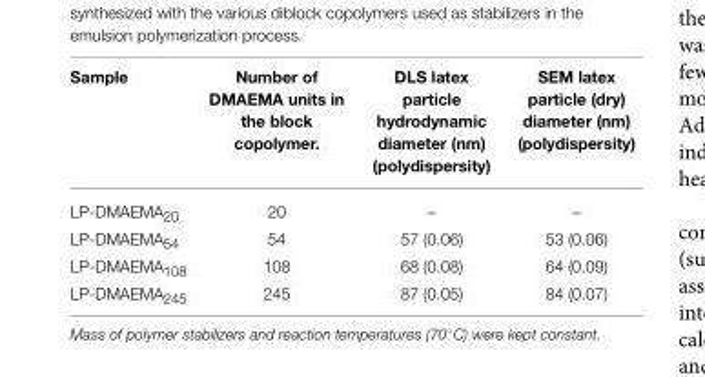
<table><thead><tr><td>Sample</td><td>Number of DMAEMA units in the block copolymer.</td><td>DLS latex particle hydrodynamic diameter (nm) (polydispersity)</td><td>SEM latex particle (dry) diameter (nm) (polydispersity)</td></tr></thead><tbody><tr><td>LP-DMAEMA<sub>20</sub></td><td>20</td><td>–</td><td>–</td></tr><tr><td>LP-DMAEMA<sub>54</sub></td><td>54</td><td>57 (0.06)</td><td>53 (0.06)</td></tr><tr><td>LP-DMAEMA<sub>108</sub></td><td>108</td><td>68 (0.08)</td><td>64 (0.09)</td></tr><tr><td>LP-DMAEMA<sub>245</sub></td><td>245</td><td>87 (0.05)</td><td>84 (0.07)</td></tr></tbody></table>